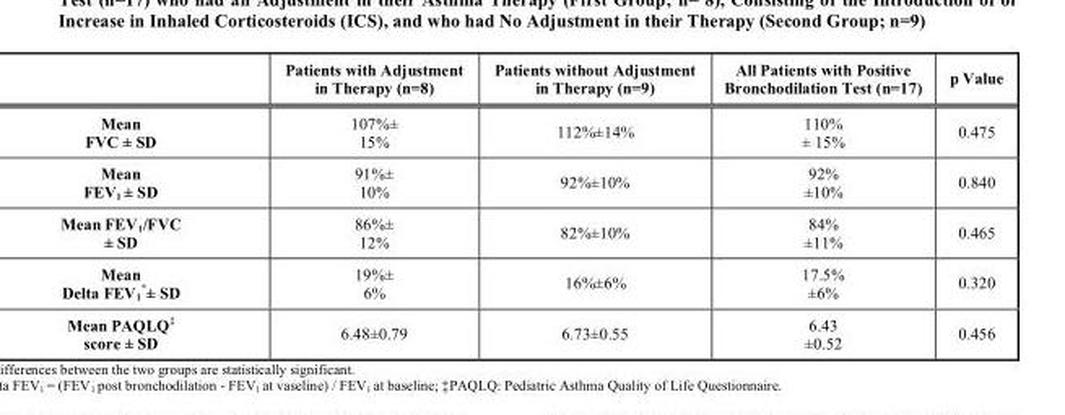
<table><thead><tr><td></td><td>Patients with Adjustment in Therapy (n=8)</td><td>Patients without Adjustment in Therapy (n=9)</td><td>All Patients with Positive Bronchodilation Test (n=17)</td><td>p Value</td></tr></thead><tbody><tr><td>Mean FVC ± SD</td><td>107%± 15%</td><td>112%±14%</td><td>110% ± 15%</td><td>0.475</td></tr><tr><td>Mean FEV<sub>1</sub> ± SD</td><td>91%± 10%</td><td>92%±10%</td><td>92% ±10%</td><td>0.840</td></tr><tr><td>Mean FEV<sub>1</sub>/FVC ± SD</td><td>86%± 12%</td><td>82%±10%</td><td>84% ±11%</td><td>0.465</td></tr><tr><td>Mean Delta FEV<sub>1</sub> *± SD</td><td>19%± 6%</td><td>16%±6%</td><td>17.5% ±6%</td><td>0.320</td></tr><tr><td>Mean PAQLQ‡ score ± SD</td><td>6.48±0.79</td><td>6.73±0.55</td><td>6.43 ±0.52</td><td>0.456</td></tr></tbody></table>